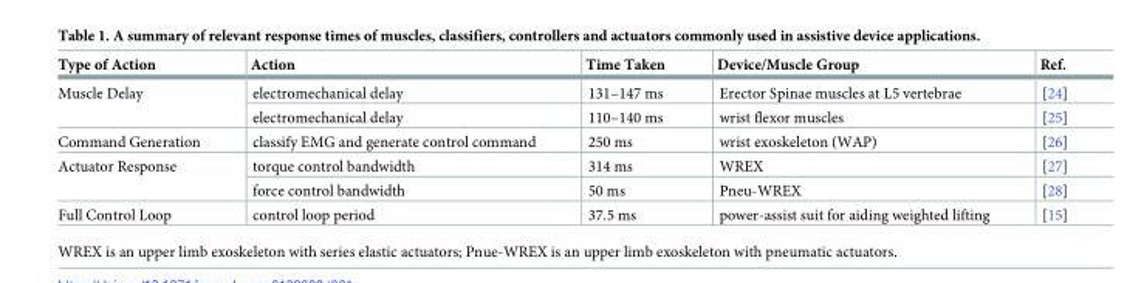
<table><thead><tr><td>Type of Action</td><td>Action</td><td>Time Taken</td><td>Device/Muscle Group</td><td>Ref.</td></tr></thead><tbody><tr><td rowspan="2">Muscle Delay</td><td>electromechanical delay</td><td>131–147 ms</td><td>Erector Spinae muscles at L5 vertebrae</td><td>[24]</td></tr><tr><td>electromechanical delay</td><td>110–140 ms</td><td>wrist flexor muscles</td><td>[25]</td></tr><tr><td>Command Generation</td><td>classify EMG and generate control command</td><td>250 ms</td><td>wrist exoskeleton (WAP)</td><td>[26]</td></tr><tr><td rowspan="2">Actuator Response</td><td>torque control bandwidth</td><td>314 ms</td><td>WREX</td><td>[27]</td></tr><tr><td>force control bandwidth</td><td>50 ms</td><td>Pneu-WREX</td><td>[28]</td></tr><tr><td>Full Control Loop</td><td>control loop period</td><td>37.5 ms</td><td>power-assist suit for aiding weighted lifting</td><td>[15]</td></tr></tbody></table>